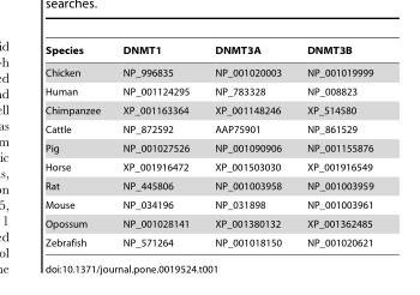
<table><thead><tr><td>Species</td><td>DNMT1</td><td>DNMT3A</td><td>DNMT3B</td></tr></thead><tbody><tr><td>Chicken</td><td>NP_996835</td><td>NP_001020003</td><td>NP_001019999</td></tr><tr><td>Human</td><td>NP_001124295</td><td>NP_783328</td><td>NP_008823</td></tr><tr><td>Chimpanzee</td><td>XP_001163364</td><td>XP_001148246</td><td>XP_514580</td></tr><tr><td>Cattle</td><td>NP_872592</td><td>AAP75901</td><td>NP_861529</td></tr><tr><td>Pig</td><td>NP_001027526</td><td>NP_001090906</td><td>NP_001155876</td></tr><tr><td>Horse</td><td>XP_001916472</td><td>XP_001503030</td><td>XP_001916549</td></tr><tr><td>Rat</td><td>NP_445806</td><td>NP_001003958</td><td>NP_001003959</td></tr><tr><td>Mouse</td><td>NP_034196</td><td>NP_031898</td><td>NP_001003961</td></tr><tr><td>Opossum</td><td>NP_001028141</td><td>XP_001380132</td><td>XP_001362485</td></tr><tr><td>Zebrafish</td><td>NP_571264</td><td>NP_001018150</td><td>NP_001020621</td></tr></tbody></table>